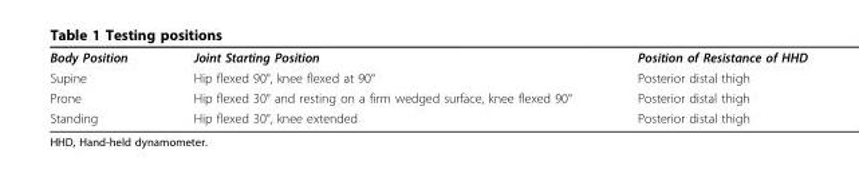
<table><tbody><tr><td>Body Position</td><td>Joint Starting Position</td><td>Position of Resistance of HHD</td></tr><tr><td>Supine</td><td>Hip flexed 90°, knee flexed at 90°</td><td>Posterior distal thigh</td></tr><tr><td>Prone</td><td>Hip flexed 30° and resting on a firm wedged surface, knee flexed 90°</td><td>Posterior distal thigh</td></tr><tr><td>Standing</td><td>Hip flexed 30°, knee extended</td><td>Posterior distal thigh</td></tr></tbody></table>